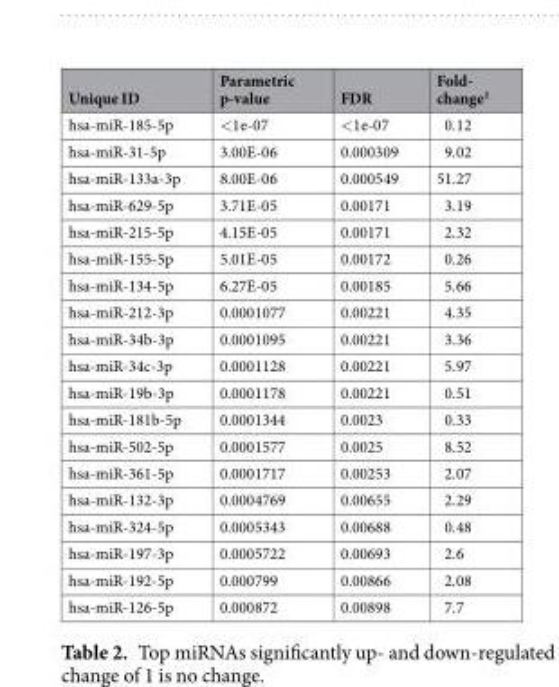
<table><thead><tr><td>Unique ID</td><td>Parametric p-value</td><td>FDR</td><td>Fold- change<sup>1</sup></td></tr></thead><tbody><tr><td>hsa-miR-185-5p</td><td>&lt;1e-07</td><td>&lt;1e-07</td><td>0.12</td></tr><tr><td>hsa-miR-31-5p</td><td>3.00E-06</td><td>0.000309</td><td>9.02</td></tr><tr><td>hsa-miR-133a-3p</td><td>8.00E-06</td><td>0.000549</td><td>51.27</td></tr><tr><td>hsa-miR-629-5p</td><td>3.71E-05</td><td>0.00171</td><td>3.19</td></tr><tr><td>hsa-miR-215-5p</td><td>4.15E-05</td><td>0.00171</td><td>2.32</td></tr><tr><td>hsa-miR-155-5p</td><td>5.01E-05</td><td>0.00172</td><td>0.26</td></tr><tr><td>hsa-miR-134-5p</td><td>6.27E-05</td><td>0.00185</td><td>5.66</td></tr><tr><td>hsa-miR-212-3p</td><td>0.0001077</td><td>0.00221</td><td>4.35</td></tr><tr><td>hsa-miR-34b-3p</td><td>0.0001095</td><td>0.00221</td><td>3.36</td></tr><tr><td>hsa-miR-34c-3p</td><td>0.0001128</td><td>0.00221</td><td>5.97</td></tr><tr><td>hsa-miR-19b-3p</td><td>0.0001178</td><td>0.00221</td><td>0.51</td></tr><tr><td>hsa-miR-181b-5p</td><td>0.0001344</td><td>0.0023</td><td>0.33</td></tr><tr><td>hsa-miR-502-5p</td><td>0.0001577</td><td>0.0025</td><td>8.52</td></tr><tr><td>hsa-miR-361-5p</td><td>0.0001717</td><td>0.00253</td><td>2.07</td></tr><tr><td>hsa-miR-132-3p</td><td>0.0004769</td><td>0.00655</td><td>2.29</td></tr><tr><td>hsa-miR-324-5p</td><td>0.0005343</td><td>0.00688</td><td>0.48</td></tr><tr><td>hsa-miR-197-3p</td><td>0.0005722</td><td>0.00693</td><td>2.6</td></tr><tr><td>hsa-miR-192-5p</td><td>0.000799</td><td>0.00866</td><td>2.08</td></tr><tr><td>hsa-miR-126-5p</td><td>0.000872</td><td>0.00898</td><td>7.7</td></tr></tbody></table>